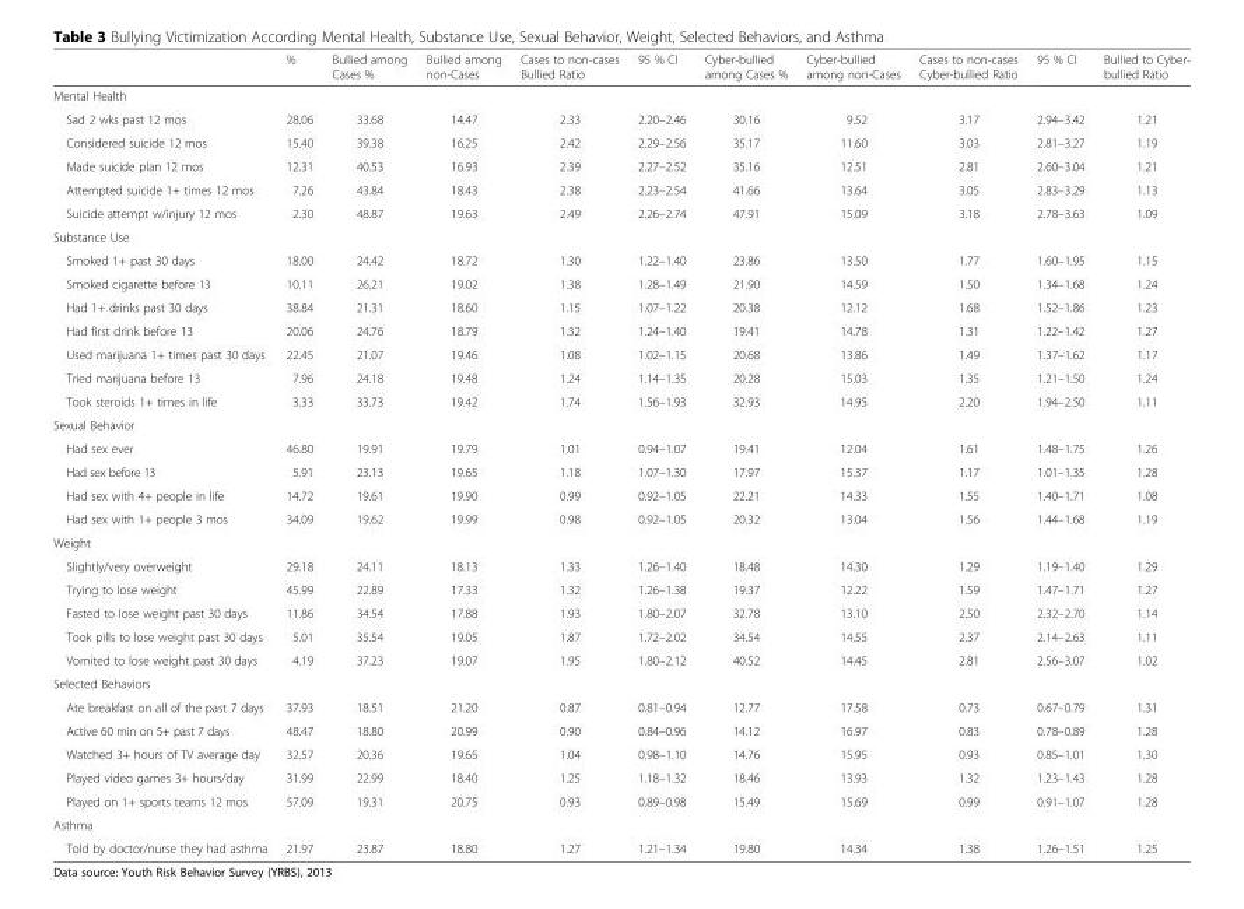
<table><thead><tr><td></td><td>%</td><td>Bullied among Cases %</td><td>Bullied among non-Cases</td><td>Cases to non-cases Bullied Ratio</td><td>95 % CI</td><td>Cyber-bullied among Cases %</td><td>Cyber-bullied among non-Cases</td><td>Cases to non-cases Cyber-bullied Ratio</td><td>95 % CI</td><td>Bullied to Cyber- bullied Ratio</td></tr></thead><tbody><tr><td colspan="11">Mental Health</td></tr><tr><td>Sad 2 wks past 12 mos</td><td>28.06</td><td>33.68</td><td>14.47</td><td>2.33</td><td>2.20–2.46</td><td>30.16</td><td>9.52</td><td>3.17</td><td>2.94–3.42</td><td>1.21</td></tr><tr><td>Considered suicide 12 mos</td><td>15.40</td><td>39.38</td><td>16.25</td><td>2.42</td><td>2.29–2.56</td><td>35.17</td><td>11.60</td><td>3.03</td><td>2.81–3.27</td><td>1.19</td></tr><tr><td>Made suicide plan 12 mos</td><td>12.31</td><td>40.53</td><td>16.93</td><td>2.39</td><td>2.27–2.52</td><td>35.16</td><td>12.51</td><td>2.81</td><td>2.60–3.04</td><td>1.21</td></tr><tr><td>Attempted suicide 1+ times 12 mos</td><td>7.26</td><td>43.84</td><td>18.43</td><td>2.38</td><td>2.23–2.54</td><td>41.66</td><td>13.64</td><td>3.05</td><td>2.83–3.29</td><td>1.13</td></tr><tr><td>Suicide attempt w/injury 12 mos</td><td>2.30</td><td>48.87</td><td>19.63</td><td>2.49</td><td>2.26–2.74</td><td>47.91</td><td>15.09</td><td>3.18</td><td>2.78–3.63</td><td>1.09</td></tr><tr><td colspan="11">Substance Use</td></tr><tr><td>Smoked 1+ past 30 days</td><td>18.00</td><td>24.42</td><td>18.72</td><td>1.30</td><td>1.22–1.40</td><td>23.86</td><td>13.50</td><td>1.77</td><td>1.60–1.95</td><td>1.15</td></tr><tr><td>Smoked cigarette before 13</td><td>10.11</td><td>26.21</td><td>19.02</td><td>1.38</td><td>1.28–1.49</td><td>21.90</td><td>14.59</td><td>1.50</td><td>1.34–1.68</td><td>1.24</td></tr><tr><td>Had 1+ drinks past 30 days</td><td>38.84</td><td>21.31</td><td>18.60</td><td>1.15</td><td>1.07–1.22</td><td>20.38</td><td>12.12</td><td>1.68</td><td>1.52–1.86</td><td>1.23</td></tr><tr><td>Had first drink before 13</td><td>20.06</td><td>24.76</td><td>18.79</td><td>1.32</td><td>1.24–1.40</td><td>19.41</td><td>14.78</td><td>1.31</td><td>1.22–1.42</td><td>1.27</td></tr><tr><td>Used marijuana 1+ times past 30 days</td><td>22.45</td><td>21.07</td><td>19.46</td><td>1.08</td><td>1.02–1.15</td><td>20.68</td><td>13.86</td><td>1.49</td><td>1.37–1.62</td><td>1.17</td></tr><tr><td>Tried marijuana before 13</td><td>7.96</td><td>24.18</td><td>19.48</td><td>1.24</td><td>1.14–1.35</td><td>20.28</td><td>15.03</td><td>1.35</td><td>1.21–1.50</td><td>1.24</td></tr><tr><td>Took steroids 1+ times in life</td><td>3.33</td><td>33.73</td><td>19.42</td><td>1.74</td><td>1.56–1.93</td><td>32.93</td><td>14.95</td><td>2.20</td><td>1.94–2.50</td><td>1.11</td></tr><tr><td colspan="11">Sexual Behavior</td></tr><tr><td>Had sex ever</td><td>46.80</td><td>19.91</td><td>19.79</td><td>1.01</td><td>0.94–1.07</td><td>19.41</td><td>12.04</td><td>1.61</td><td>1.48–1.75</td><td>1.26</td></tr><tr><td>Had sex before 13</td><td>5.91</td><td>23.13</td><td>19.65</td><td>1.18</td><td>1.07–1.30</td><td>17.97</td><td>15.37</td><td>1.17</td><td>1.01–1.35</td><td>1.28</td></tr><tr><td>Had sex with 4+ people in life</td><td>14.72</td><td>19.61</td><td>19.90</td><td>0.99</td><td>0.92–1.05</td><td>22.21</td><td>14.33</td><td>1.55</td><td>1.40–1.71</td><td>1.08</td></tr><tr><td>Had sex with 1+ people 3 mos</td><td>34.09</td><td>19.62</td><td>19.99</td><td>0.98</td><td>0.92–1.05</td><td>20.32</td><td>13.04</td><td>1.56</td><td>1.44–1.68</td><td>1.19</td></tr><tr><td colspan="11">Weight</td></tr><tr><td>Slightly/very overweight</td><td>29.18</td><td>24.11</td><td>18.13</td><td>1.33</td><td>1.26–1.40</td><td>18.48</td><td>14.30</td><td>1.29</td><td>1.19–1.40</td><td>1.29</td></tr><tr><td>Trying to lose weight</td><td>45.99</td><td>22.89</td><td>17.33</td><td>1.32</td><td>1.26–1.38</td><td>19.37</td><td>12.22</td><td>1.59</td><td>1.47–1.71</td><td>1.27</td></tr><tr><td>Fasted to lose weight past 30 days</td><td>11.86</td><td>34.54</td><td>17.88</td><td>1.93</td><td>1.80–2.07</td><td>32.78</td><td>13.10</td><td>2.50</td><td>2.32–2.70</td><td>1.14</td></tr><tr><td>Took pills to lose weight past 30 days</td><td>5.01</td><td>35.54</td><td>19.05</td><td>1.87</td><td>1.72–2.02</td><td>34.54</td><td>14.55</td><td>2.37</td><td>2.14–2.63</td><td>1.11</td></tr><tr><td>Vomited to lose weight past 30 days</td><td>4.19</td><td>37.23</td><td>19.07</td><td>1.95</td><td>1.80–2.12</td><td>40.52</td><td>14.45</td><td>2.81</td><td>2.56–3.07</td><td>1.02</td></tr><tr><td colspan="11">Selected Behaviors</td></tr><tr><td>Ate breakfast on all of the past 7 days</td><td>37.93</td><td>18.51</td><td>21.20</td><td>0.87</td><td>0.81–0.94</td><td>12.77</td><td>17.58</td><td>0.73</td><td>0.67–0.79</td><td>1.31</td></tr><tr><td>Active 60 min on 5+ past 7 days</td><td>48.47</td><td>18.80</td><td>20.99</td><td>0.90</td><td>0.84–0.96</td><td>14.12</td><td>16.97</td><td>0.83</td><td>0.78–0.89</td><td>1.28</td></tr><tr><td>Watched 3+ hours of TV average day</td><td>32.57</td><td>20.36</td><td>19.65</td><td>1.04</td><td>0.98–1.10</td><td>14.76</td><td>15.95</td><td>0.93</td><td>0.85–1.01</td><td>1.30</td></tr><tr><td>Played video games 3+ hours/day</td><td>31.99</td><td>22.99</td><td>18.40</td><td>1.25</td><td>1.18–1.32</td><td>18.46</td><td>13.93</td><td>1.32</td><td>1.23–1.43</td><td>1.28</td></tr><tr><td>Played on 1+ sports teams 12 mos</td><td>57.09</td><td>19.31</td><td>20.75</td><td>0.93</td><td>0.89–0.98</td><td>15.49</td><td>15.69</td><td>0.99</td><td>0.91–1.07</td><td>1.28</td></tr><tr><td colspan="11">Asthma</td></tr><tr><td>Told by doctor/nurse they had asthma</td><td>21.97</td><td>23.87</td><td>18.80</td><td>1.27</td><td>1.21–1.34</td><td>19.80</td><td>14.34</td><td>1.38</td><td>1.26–1.51</td><td>1.25</td></tr></tbody></table>